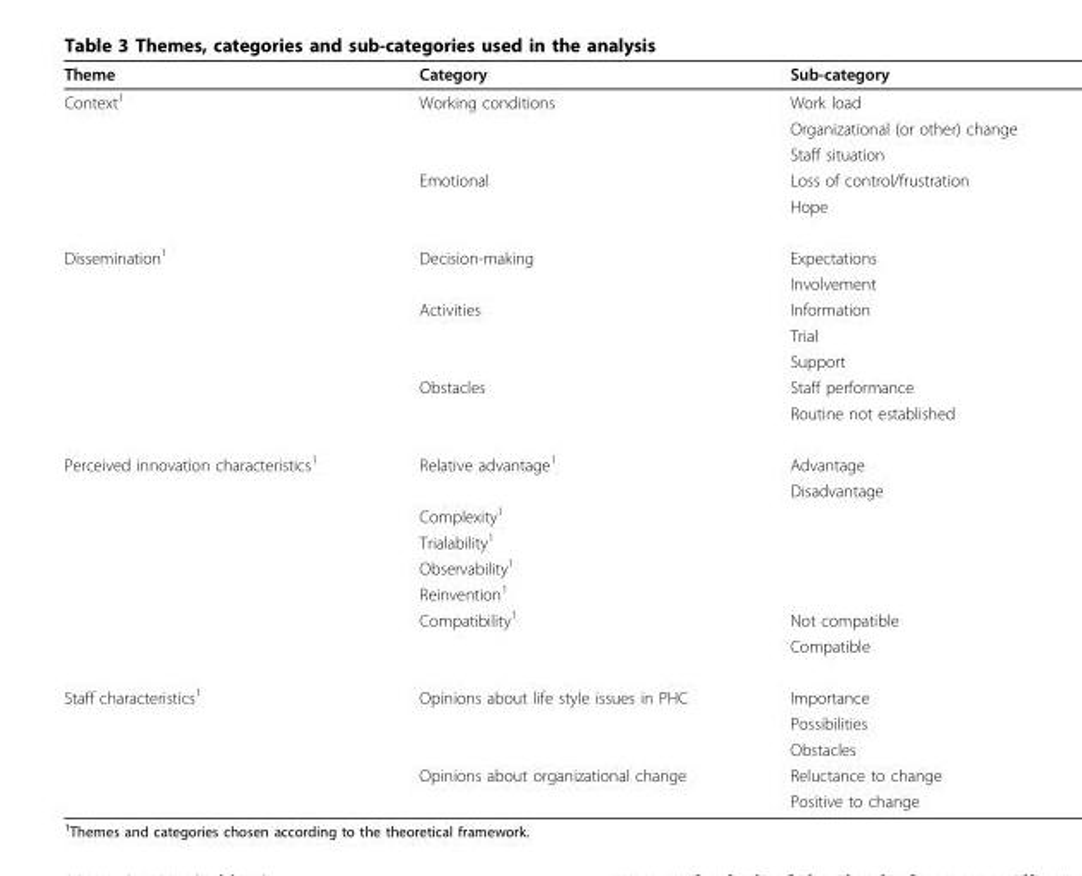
<table><thead><tr><td>Theme</td><td>Category</td><td>Sub-category</td></tr></thead><tbody><tr><td rowspan="5">Context<sup>1</sup></td><td>Working conditions</td><td>Work load</td></tr><tr><td></td><td>Organizational (or other) change</td></tr><tr><td></td><td>Staff situation</td></tr><tr><td>Emotional</td><td>Loss of control/frustration</td></tr><tr><td></td><td>Hope</td></tr><tr><td rowspan="7">Dissemination<sup>1</sup></td><td>Decision-making</td><td>Expectations</td></tr><tr><td></td><td>Involvement</td></tr><tr><td>Activities</td><td>Information</td></tr><tr><td></td><td>Trial</td></tr><tr><td></td><td>Support</td></tr><tr><td>Obstacles</td><td>Staff performance</td></tr><tr><td></td><td>Routine not established</td></tr><tr><td rowspan="8">Perceived innovation characteristics<sup>1</sup></td><td>Relative advantage<sup>1</sup></td><td>Advantage</td></tr><tr><td></td><td>Disadvantage</td></tr><tr><td>Complexity<sup>1</sup></td><td></td></tr><tr><td>Trialability<sup>1</sup></td><td></td></tr><tr><td>Observability<sup>1</sup></td><td></td></tr><tr><td>Reinvention<sup>1</sup></td><td></td></tr><tr><td>Compatibility<sup>1</sup></td><td>Not compatible</td></tr><tr><td></td><td>Compatible</td></tr><tr><td rowspan="5">Staff characteristics<sup>1</sup></td><td>Opinions about life style issues in PHC</td><td>Importance</td></tr><tr><td></td><td>Possibilities</td></tr><tr><td></td><td>Obstacles</td></tr><tr><td>Opinions about organizational change</td><td>Reluctance to change</td></tr><tr><td></td><td>Positive to change</td></tr></tbody></table>